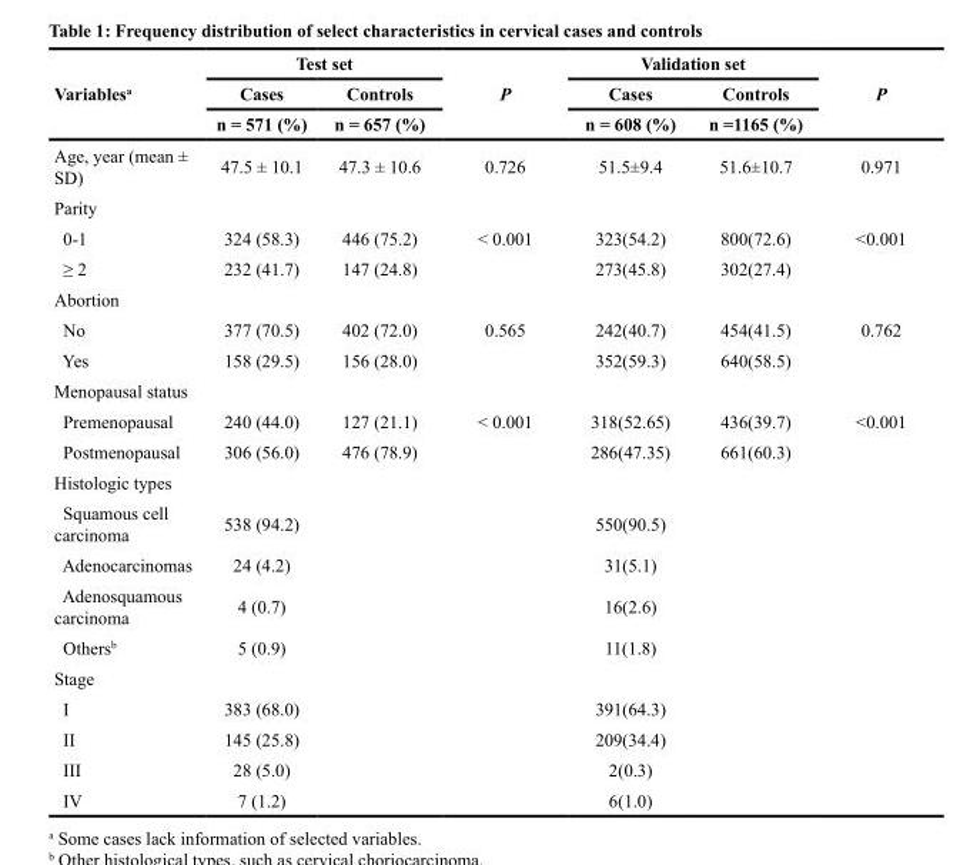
<table><thead><tr><td rowspan="3">Variables<sup>a</sup></td><td colspan="2">Test set</td><td rowspan="3">P</td><td colspan="2">Validation set</td><td rowspan="3">P</td></tr><tr><td rowspan="2">Cases n = 571 (%)</td><td rowspan="2">Controls n = 657 (%)</td><td rowspan="2">Cases n = 608 (%)</td><td rowspan="2">Controls n =1165 (%)</td></tr><tr></tr></thead><tbody><tr><td>Age, year (mean ± SD)</td><td>47.5 ± 10.1</td><td>47.3 ± 10.6</td><td>0.726</td><td>51.5±9.4</td><td>51.6±10.7</td><td>0.971</td></tr><tr><td colspan="7">Parity</td></tr><tr><td>0-1</td><td>324 (58.3)</td><td>446 (75.2)</td><td>&lt; 0.001</td><td>323(54.2)</td><td>800(72.6)</td><td>&lt;0.001</td></tr><tr><td>≥ 2</td><td>232 (41.7)</td><td>147 (24.8)</td><td></td><td>273(45.8)</td><td>302(27.4)</td><td></td></tr><tr><td colspan="7">Abortion</td></tr><tr><td>No</td><td>377 (70.5)</td><td>402 (72.0)</td><td>0.565</td><td>242(40.7)</td><td>454(41.5)</td><td>0.762</td></tr><tr><td>Yes</td><td>158 (29.5)</td><td>156 (28.0)</td><td></td><td>352(59.3)</td><td>640(58.5)</td><td></td></tr><tr><td colspan="7">Menopausal status</td></tr><tr><td>Premenopausal</td><td>240 (44.0)</td><td>127 (21.1)</td><td>&lt; 0.001</td><td>318(52.65)</td><td>436(39.7)</td><td>&lt;0.001</td></tr><tr><td>Postmenopausal</td><td>306 (56.0)</td><td>476 (78.9)</td><td></td><td>286(47.35)</td><td>661(60.3)</td><td></td></tr><tr><td colspan="7">Histologic types</td></tr><tr><td>Squamous cell carcinoma</td><td>538 (94.2)</td><td></td><td></td><td>550(90.5)</td><td></td><td></td></tr><tr><td>Adenocarcinomas</td><td>24 (4.2)</td><td></td><td></td><td>31(5.1)</td><td></td><td></td></tr><tr><td>Adenosquamous carcinoma</td><td>4 (0.7)</td><td></td><td></td><td>16(2.6)</td><td></td><td></td></tr><tr><td>Others<sup>b</sup></td><td>5 (0.9)</td><td></td><td></td><td>11(1.8)</td><td></td><td></td></tr><tr><td colspan="7">Stage</td></tr><tr><td>I</td><td>383 (68.0)</td><td></td><td></td><td>391(64.3)</td><td></td><td></td></tr><tr><td>II</td><td>145 (25.8)</td><td></td><td></td><td>209(34.4)</td><td></td><td></td></tr><tr><td>III</td><td>28 (5.0)</td><td></td><td></td><td>2(0.3)</td><td></td><td></td></tr><tr><td>IV</td><td>7 (1.2)</td><td></td><td></td><td>6(1.0)</td><td></td><td></td></tr></tbody></table>